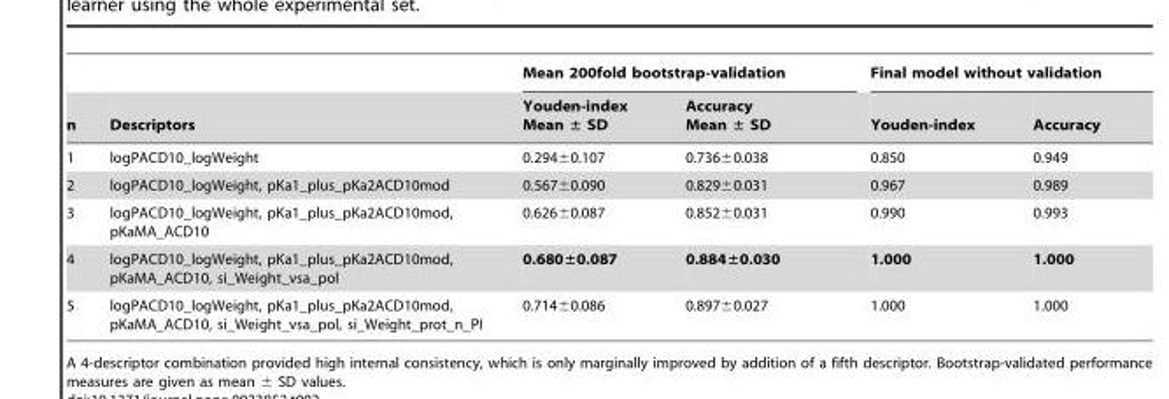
<table><thead><tr><td rowspan="2">n</td><td rowspan="2">Descriptors</td><td colspan="2">Mean 200fold bootstrap-validation</td><td colspan="2">Final model without validation</td></tr><tr><td>Youden-index Mean ± SD</td><td>Accuracy Mean ± SD</td><td>Youden-index</td><td>Accuracy</td></tr></thead><tbody><tr><td>1</td><td>logPACD10_logWeight</td><td>0.294±0.107</td><td>0.736±0.038</td><td>0.850</td><td>0.949</td></tr><tr><td>2</td><td>logPACD10_logWeight, pKa1_plus_pKa2ACD10mod</td><td>0.567±0.090</td><td>0.829±0.031</td><td>0.967</td><td>0.989</td></tr><tr><td>3</td><td>logPACD10_logWeight, pKa1_plus_pKa2ACD10mod, pKaMA_ACD10</td><td>0.626±0.087</td><td>0.852±0.031</td><td>0.990</td><td>0.993</td></tr><tr><td>4</td><td>logPACD10_logWeight, pKa1_plus_pKa2ACD10mod, pKaMA_ACD10, si_Weight_vsa_pol</td><td>0.680±0.087</td><td>0.884±0.030</td><td>1.000</td><td>1.000</td></tr><tr><td>5</td><td>logPACD10_logWeight, pKa1_plus_pKa2ACD10mod, pKaMA_ACD10, si_Weight_vsa_pol, si_Weight_prot_n_PI</td><td>0.714±0.086</td><td>0.897±0.027</td><td>1.000</td><td>1.000</td></tr></tbody></table>